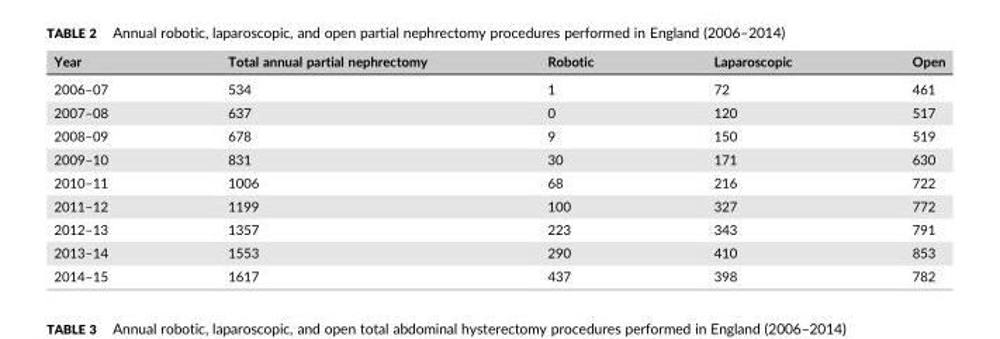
<table><thead><tr><td>Year</td><td>Total annual partial nephrectomy</td><td>Robotic</td><td>Laparoscopic</td><td>Open</td></tr></thead><tbody><tr><td>2006–07</td><td>534</td><td>1</td><td>72</td><td>461</td></tr><tr><td>2007–08</td><td>637</td><td>0</td><td>120</td><td>517</td></tr><tr><td>2008–09</td><td>678</td><td>9</td><td>150</td><td>519</td></tr><tr><td>2009–10</td><td>831</td><td>30</td><td>171</td><td>630</td></tr><tr><td>2010–11</td><td>1006</td><td>68</td><td>216</td><td>722</td></tr><tr><td>2011–12</td><td>1199</td><td>100</td><td>327</td><td>772</td></tr><tr><td>2012–13</td><td>1357</td><td>223</td><td>343</td><td>791</td></tr><tr><td>2013–14</td><td>1553</td><td>290</td><td>410</td><td>853</td></tr><tr><td>2014–15</td><td>1617</td><td>437</td><td>398</td><td>782</td></tr></tbody></table>